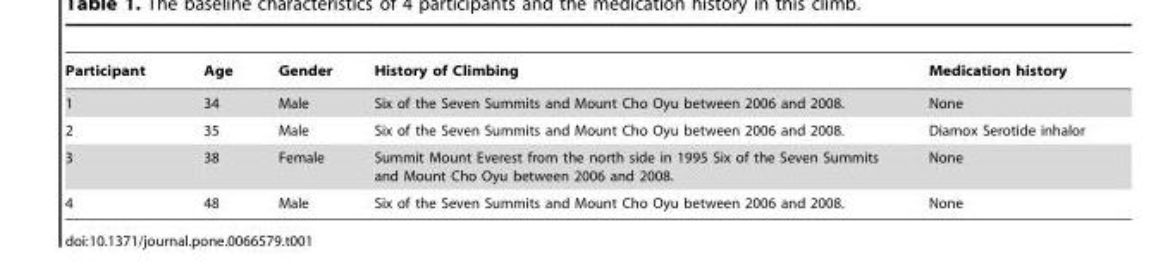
<table><thead><tr><td>Participant</td><td>Age</td><td>Gender</td><td>History of Climbing</td><td>Medication history</td></tr></thead><tbody><tr><td>1</td><td>34</td><td>Male</td><td>Six of the Seven Summits and Mount Cho Oyu between 2006 and 2008.</td><td>None</td></tr><tr><td>2</td><td>35</td><td>Male</td><td>Six of the Seven Summits and Mount Cho Oyu between 2006 and 2008.</td><td>Diamox Serotide inhalor</td></tr><tr><td>3</td><td>38</td><td>Female</td><td>Summit Mount Everest from the north side in 1995 Six of the Seven Summits and Mount Cho Oyu between 2006 and 2008.</td><td>None</td></tr><tr><td>4</td><td>48</td><td>Male</td><td>Six of the Seven Summits and Mount Cho Oyu between 2006 and 2008.</td><td>None</td></tr></tbody></table>